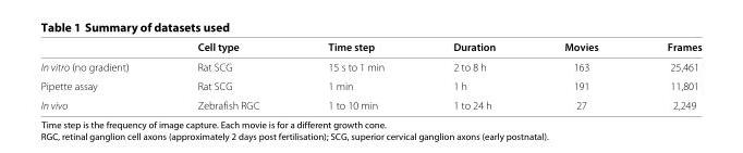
<table><thead><tr><td></td><td>Cell type</td><td>Time step</td><td>Duration</td><td>Movies</td><td>Frames</td></tr></thead><tbody><tr><td>In vitro (no gradient)</td><td>Rat SCG</td><td>15 s to 1 min</td><td>2 to 8 h</td><td>163</td><td>25,461</td></tr><tr><td>Pipette assay</td><td>Rat SCG</td><td>1 min</td><td>1 h</td><td>191</td><td>11,801</td></tr><tr><td>In vivo</td><td>Zebrafish RGC</td><td>1 to 10 min</td><td>1 to 24 h</td><td>27</td><td>2,249</td></tr></tbody></table>